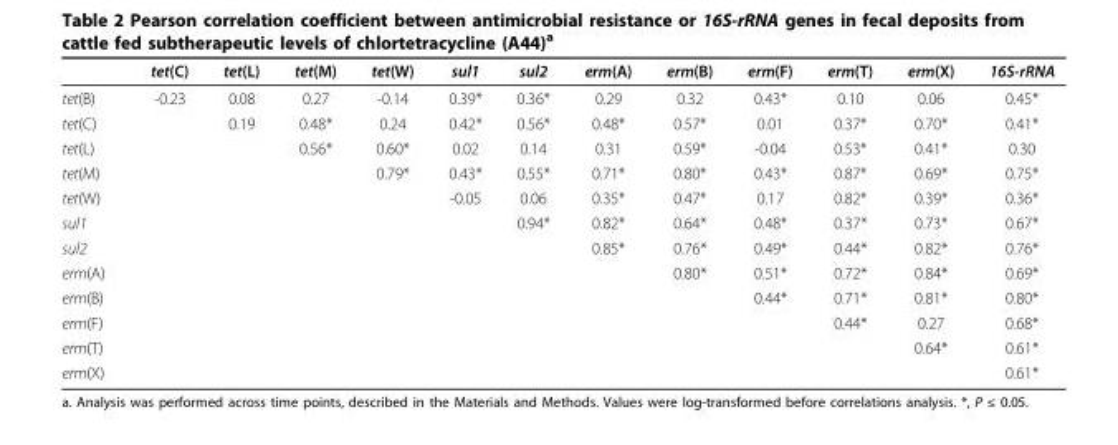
<table><thead><tr><td></td><td>tet(C)</td><td>tet(L)</td><td>tet(M)</td><td>tet(W)</td><td>sul1</td><td>sul2</td><td>erm(A)</td><td>erm(B)</td><td>erm(F)</td><td>erm(T)</td><td>erm(X)</td><td>16S-rRNA</td></tr></thead><tbody><tr><td>tet(B)</td><td>-0.23</td><td>0.08</td><td>0.27</td><td>-0.14</td><td>0.39*</td><td>0.36*</td><td>0.29</td><td>0.32</td><td>0.43*</td><td>0.10</td><td>0.06</td><td>0.45*</td></tr><tr><td>tet(C)</td><td></td><td>0.19</td><td>0.48*</td><td>0.24</td><td>0.42*</td><td>0.56*</td><td>0.48*</td><td>0.57*</td><td>0.01</td><td>0.37*</td><td>0.70*</td><td>0.41*</td></tr><tr><td>tet(L)</td><td></td><td></td><td>0.56*</td><td>0.60*</td><td>0.02</td><td>0.14</td><td>0.31</td><td>0.59*</td><td>-0.04</td><td>0.53*</td><td>0.41*</td><td>0.30</td></tr><tr><td>tet(M)</td><td></td><td></td><td></td><td>0.79*</td><td>0.43*</td><td>0.55*</td><td>0.71*</td><td>0.80*</td><td>0.43*</td><td>0.87*</td><td>0.69*</td><td>0.75*</td></tr><tr><td>tet(W)</td><td></td><td></td><td></td><td></td><td>-0.05</td><td>0.06</td><td>0.35*</td><td>0.47*</td><td>0.17</td><td>0.82*</td><td>0.39*</td><td>0.36*</td></tr><tr><td>sul1</td><td></td><td></td><td></td><td></td><td></td><td>0.94*</td><td>0.82*</td><td>0.64*</td><td>0.48*</td><td>0.37*</td><td>0.73*</td><td>0.67*</td></tr><tr><td>sul2</td><td></td><td></td><td></td><td></td><td></td><td></td><td>0.85*</td><td>0.76*</td><td>0.49*</td><td>0.44*</td><td>0.82*</td><td>0.76*</td></tr><tr><td>erm(A)</td><td></td><td></td><td></td><td></td><td></td><td></td><td></td><td>0.80*</td><td>0.51*</td><td>0.72*</td><td>0.84*</td><td>0.69*</td></tr><tr><td>erm(B)</td><td></td><td></td><td></td><td></td><td></td><td></td><td></td><td></td><td>0.44*</td><td>0.71*</td><td>0.81*</td><td>0.80*</td></tr><tr><td>erm(F)</td><td></td><td></td><td></td><td></td><td></td><td></td><td></td><td></td><td></td><td>0.44*</td><td>0.27</td><td>0.68*</td></tr><tr><td>erm(T)</td><td></td><td></td><td></td><td></td><td></td><td></td><td></td><td></td><td></td><td></td><td>0.64*</td><td>0.61*</td></tr><tr><td>erm(X)</td><td></td><td></td><td></td><td></td><td></td><td></td><td></td><td></td><td></td><td></td><td></td><td>0.61*</td></tr></tbody></table>